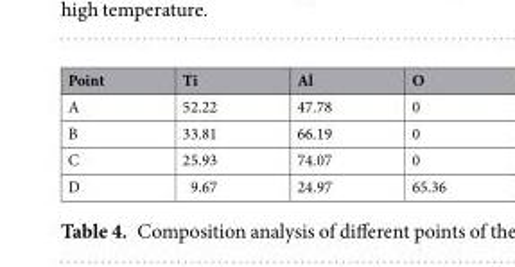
<table><thead><tr><td>Point</td><td>Ti</td><td>Al</td><td>O</td></tr></thead><tbody><tr><td>A</td><td>52.22</td><td>47.78</td><td>0</td></tr><tr><td>B</td><td>33.81</td><td>66.19</td><td>0</td></tr><tr><td>C</td><td>25.93</td><td>74.07</td><td>0</td></tr><tr><td>D</td><td>9.67</td><td>24.97</td><td>65.36</td></tr></tbody></table>